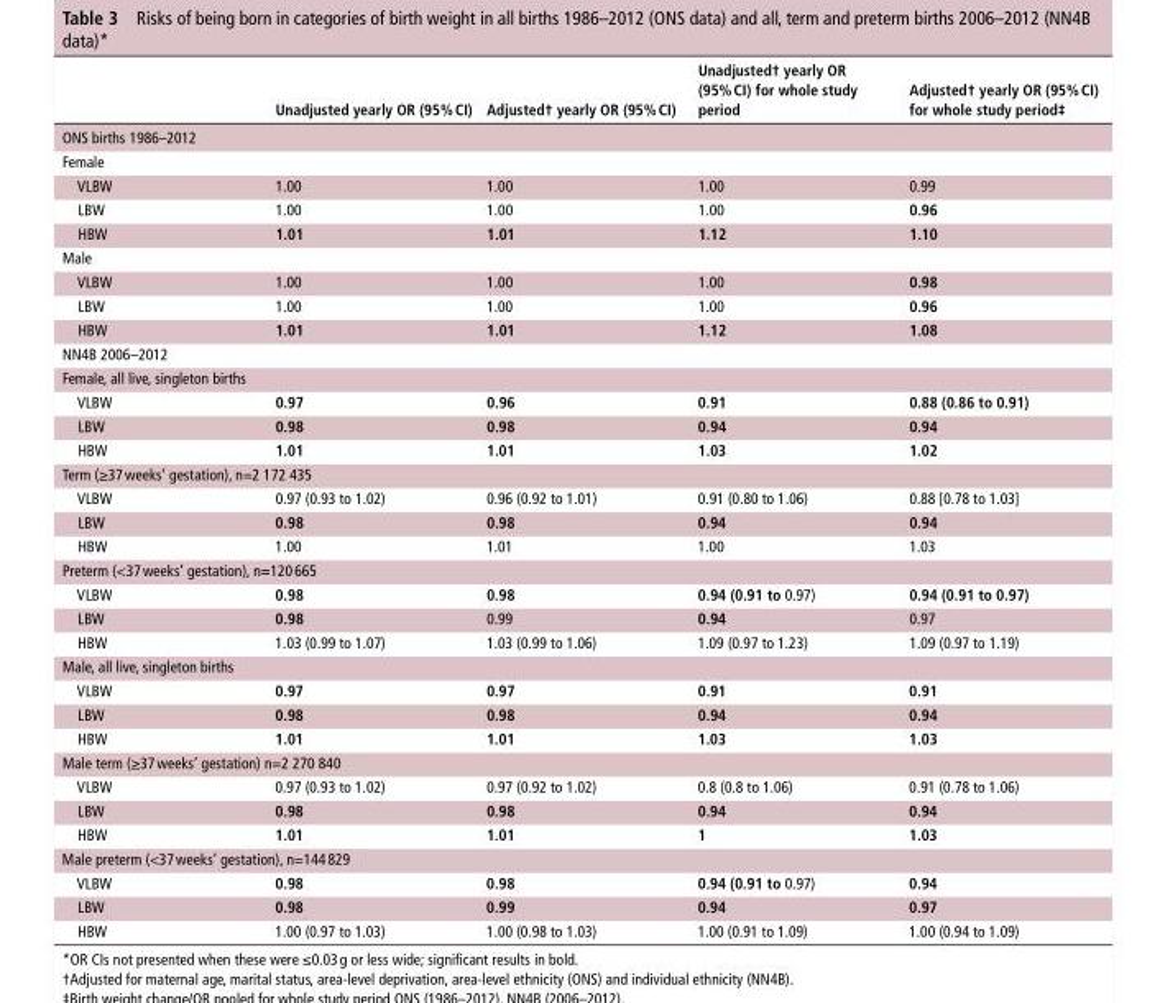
<table><thead><tr><td></td><td>unadjusted yearly Or (95% CI)</td><td>Adjusted† yearly Or (95% CI)</td><td>unadjusted† yearly Or (95% CI) for whole study period</td><td>Adjusted† yearly Or (95% CI) for whole study period‡</td></tr></thead><tbody><tr><td colspan="5">ONS births 1986–2012</td></tr><tr><td colspan="5">Female</td></tr><tr><td>VLBW</td><td>1.00</td><td>1.00</td><td>1.00</td><td>0.99</td></tr><tr><td>LBW</td><td>1.00</td><td>1.00</td><td>1.00</td><td>0.96</td></tr><tr><td>HBW</td><td>1.01</td><td>1.01</td><td>1.12</td><td>1.10</td></tr><tr><td colspan="5">Male</td></tr><tr><td>VLBW</td><td>1.00</td><td>1.00</td><td>1.00</td><td>0.98</td></tr><tr><td>LBW</td><td>1.00</td><td>1.00</td><td>1.00</td><td>0.96</td></tr><tr><td>HBW</td><td>1.01</td><td>1.01</td><td>1.12</td><td>1.08</td></tr><tr><td colspan="5">NN4B 2006–2012</td></tr><tr><td colspan="5">Female, all live, singleton births</td></tr><tr><td>VLBW</td><td>0.97</td><td>0.96</td><td>0.91</td><td>0.88 (0.86 to 0.91)</td></tr><tr><td>LBW</td><td>0.98</td><td>0.98</td><td>0.94</td><td>0.94</td></tr><tr><td>HBW</td><td>1.01</td><td>1.01</td><td>1.03</td><td>1.02</td></tr><tr><td colspan="5">Term (≥37 weeks’ gestation), n=2 172 435</td></tr><tr><td>VLBW</td><td>0.97 (0.93 to 1.02)</td><td>0.96 (0.92 to 1.01)</td><td>0.91 (0.80 to 1.06)</td><td>0.88 [0.78 to 1.03]</td></tr><tr><td>LBW</td><td>0.98</td><td>0.98</td><td>0.94</td><td>0.94</td></tr><tr><td>HBW</td><td>1.00</td><td>1.01</td><td>1.00</td><td>1.03</td></tr><tr><td colspan="5">Preterm (&lt;37 weeks’ gestation), n=120 665</td></tr><tr><td>VLBW</td><td>0.98</td><td>0.98</td><td>0.94 (0.91 to 0.97)</td><td>0.94 (0.91 to 0.97)</td></tr><tr><td>LBW</td><td>0.98</td><td>0.99</td><td>0.94</td><td>0.97</td></tr><tr><td>HBW</td><td>1.03 (0.99 to 1.07)</td><td>1.03 (0.99 to 1.06)</td><td>1.09 (0.97 to 1.23)</td><td>1.09 (0.97 to 1.19)</td></tr><tr><td colspan="5">Male, all live, singleton births</td></tr><tr><td>VLBW</td><td>0.97</td><td>0.97</td><td>0.91</td><td>0.91</td></tr><tr><td>LBW</td><td>0.98</td><td>0.98</td><td>0.94</td><td>0.94</td></tr><tr><td>HBW</td><td>1.01</td><td>1.01</td><td>1.03</td><td>1.03</td></tr><tr><td colspan="5">Male term (≥37 weeks’ gestation) n=2 270 840</td></tr><tr><td>VLBW</td><td>0.97 (0.93 to 1.02)</td><td>0.97 (0.92 to 1.02)</td><td>0.8 (0.8 to 1.06)</td><td>0.91 (0.78 to 1.06)</td></tr><tr><td>LBW</td><td>0.98</td><td>0.98</td><td>0.94</td><td>0.94</td></tr><tr><td>HBW</td><td>1.01</td><td>1.01</td><td>1</td><td>1.03</td></tr><tr><td colspan="5">Male preterm (&lt;37 weeks’ gestation), n=144 829</td></tr><tr><td>VLBW</td><td>0.98</td><td>0.98</td><td>0.94 (0.91 to 0.97)</td><td>0.94</td></tr><tr><td>LBW</td><td>0.98</td><td>0.99</td><td>0.94</td><td>0.97</td></tr><tr><td>HBW</td><td>1.00 (0.97 to 1.03)</td><td>1.00 (0.98 to 1.03)</td><td>1.00 (0.91 to 1.09)</td><td>1.00 (0.94 to 1.09)</td></tr></tbody></table>